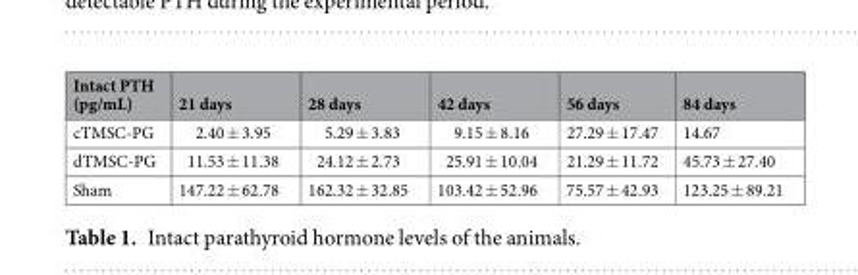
<table><thead><tr><td>Intact PTH (pg/mL)</td><td>21 days</td><td>28 days</td><td>42 days</td><td>56 days</td><td>84 days</td></tr></thead><tbody><tr><td>cTMSC-PG</td><td>2.40 ± 3.95</td><td>5.29 ± 3.83</td><td>9.15 ± 8.16</td><td>27.29 ± 17.47</td><td>14.67</td></tr><tr><td>dTMSC-PG</td><td>11.53 ± 11.38</td><td>24.12 ± 2.73</td><td>25.91 ± 10.04</td><td>21.29 ± 11.72</td><td>45.73 ± 27.40</td></tr><tr><td>Sham</td><td>147.22 ± 62.78</td><td>162.32 ± 32.85</td><td>103.42 ± 52.96</td><td>75.57 ± 42.93</td><td>123.25 ± 89.21</td></tr></tbody></table>